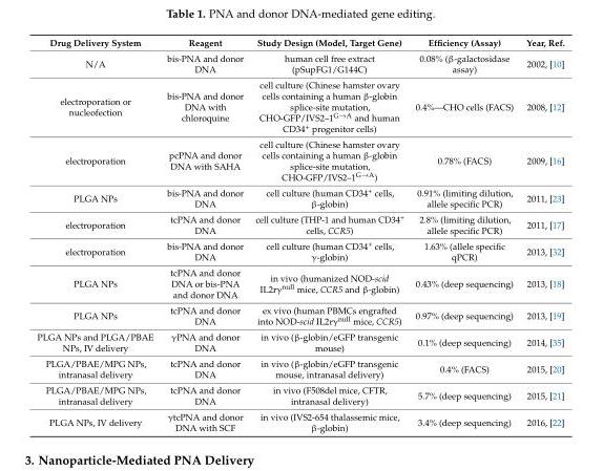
<table><thead><tr><td>Drug Delivery System</td><td>Reagent</td><td>Study Design (Model, Target Gene)</td><td>Efficiency (Assay)</td><td>Year, Ref.</td></tr></thead><tbody><tr><td>N/A</td><td>bis-PNA and donor DNA</td><td>human cell free extract (pSupFG1/G144C)</td><td>0.08% (β-galactosidase assay)</td><td>2002, [10]</td></tr><tr><td>electroporation or nucleofection</td><td>bis-PNA and donor DNA with chloroquine</td><td>cell culture (Chinese hamster ovary cells containing a human β-globin splice-site mutation, CHO-GFP/IVS2–1<sup>G→A</sup> and human CD34<sup>+</sup> progenitor cells)</td><td>0.4%—CHO cells (FACS)</td><td>2008, [12]</td></tr><tr><td>electroporation</td><td>pcPNA and donor DNA with SAHA</td><td>cell culture (Chinese hamster ovary cells containing a human β-globin splice-site mutation, CHO-GFP/IVS2–1<sup>G→A</sup>)</td><td>0.78% (FACS)</td><td>2009, [16]</td></tr><tr><td>PLGA NPs</td><td>bis-PNA and donor DNA</td><td>cell culture (human CD34<sup>+</sup> cells, β-globin)</td><td>0.91% (limiting dilution, allele specific PCR)</td><td>2011, [23]</td></tr><tr><td>electroporation</td><td>tcPNA and donor DNA</td><td>cell culture (THP-1 and human CD34<sup>+</sup> cells, CCR5)</td><td>2.8% (limiting dilution, allele specific PCR)</td><td>2011, [17]</td></tr><tr><td>electroporation</td><td>bis-PNA and donor DNA</td><td>cell culture (human CD34<sup>+</sup> cells, γ-globin)</td><td>1.63% (allele specific qPCR)</td><td>2013, [32]</td></tr><tr><td>PLGA NPs</td><td>tcPNA and donor DNA or bis-PNA and donor DNA</td><td>in vivo (humanized NOD-scid IL2rγ<sup>null</sup> mice, CCR5 and β-globin)</td><td>0.43% (deep sequencing)</td><td>2013, [18]</td></tr><tr><td>PLGA NPs</td><td>tcPNA and donor DNA</td><td>ex vivo (human PBMCs engrafted into NOD-scid IL2rγ<sup>null</sup> mice, CCR5)</td><td>0.97% (deep sequencing)</td><td>2013, [19]</td></tr><tr><td>PLGA NPs and PLGA/PBAE NPs, IV delivery</td><td>γPNA and donor DNA</td><td>in vivo (β-globin/eGFP transgenic mouse)</td><td>0.1% (deep sequencing)</td><td>2014, [35]</td></tr><tr><td>PLGA/PBAE/MPG NPs, intranasal delivery</td><td>tcPNA and donor DNA</td><td>in vivo (β-globin/eGFP transgenic mouse, intranasal delivery)</td><td>0.4% (FACS)</td><td>2015, [20]</td></tr><tr><td>PLGA/PBAE/MPG NPs, intranasal delivery</td><td>tcPNA and donor DNA</td><td>in vivo (F508del mice, CFTR, intranasal delivery)</td><td>5.7% (deep sequencing)</td><td>2015, [21]</td></tr><tr><td>PLGA NPs, IV delivery</td><td>γtcPNA and donor DNA with SCF</td><td>in vivo (IVS2-654 thalassemic mice, β-globin)</td><td>3.4% (deep sequencing)</td><td>2016, [22]</td></tr></tbody></table>